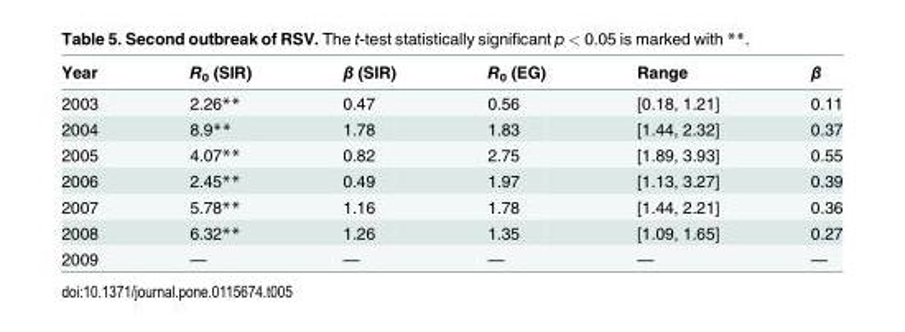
<table><thead><tr><td>Year</td><td>R<sub>0</sub> (SIR)</td><td>β (SIR)</td><td>R<sub>0</sub> (EG)</td><td>Range</td><td>β</td></tr></thead><tbody><tr><td>2003</td><td>2.26**</td><td>0.47</td><td>0.56</td><td>[0.18, 1.21]</td><td>0.11</td></tr><tr><td>2004</td><td>8.9**</td><td>1.78</td><td>1.83</td><td>[1.44, 2.32]</td><td>0.37</td></tr><tr><td>2005</td><td>4.07**</td><td>0.82</td><td>2.75</td><td>[1.89, 3.93]</td><td>0.55</td></tr><tr><td>2006</td><td>2.45**</td><td>0.49</td><td>1.97</td><td>[1.13, 3.27]</td><td>0.39</td></tr><tr><td>2007</td><td>5.78**</td><td>1.16</td><td>1.78</td><td>[1.44, 2.21]</td><td>0.36</td></tr><tr><td>2008</td><td>6.32**</td><td>1.26</td><td>1.35</td><td>[1.09, 1.65]</td><td>0.27</td></tr><tr><td>2009</td><td>—</td><td>—</td><td>—</td><td>—</td><td>—</td></tr></tbody></table>